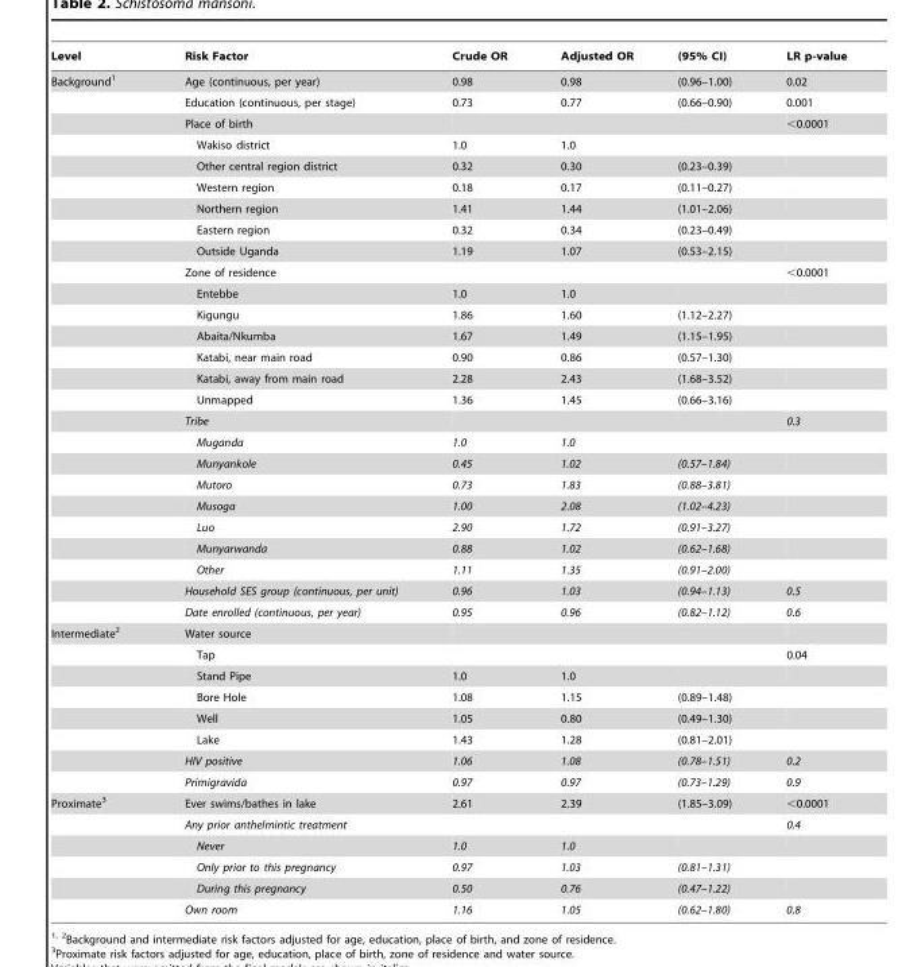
<table><thead><tr><td>Level</td><td>Risk Factor</td><td>Crude OR</td><td>Adjusted OR</td><td>(95% CI)</td><td>LR p-value</td></tr></thead><tbody><tr><td rowspan="26">Background<sup>1</sup></td><td>Age (continuous, per year)</td><td>0.98</td><td>0.98</td><td>(0.96–1.00)</td><td>0.02</td></tr><tr><td>Education (continuous, per stage)</td><td>0.73</td><td>0.77</td><td>(0.66–0.90)</td><td>0.001</td></tr><tr><td>Place of birth</td><td></td><td></td><td></td><td>&lt;0.0001</td></tr><tr><td>Wakiso district</td><td>1.0</td><td>1.0</td><td></td><td></td></tr><tr><td>Other central region district</td><td>0.32</td><td>0.30</td><td>(0.23–0.39)</td><td></td></tr><tr><td>Western region</td><td>0.18</td><td>0.17</td><td>(0.11–0.27)</td><td></td></tr><tr><td>Northern region</td><td>1.41</td><td>1.44</td><td>(1.01–2.06)</td><td></td></tr><tr><td>Eastern region</td><td>0.32</td><td>0.34</td><td>(0.23–0.49)</td><td></td></tr><tr><td>Outside Uganda</td><td>1.19</td><td>1.07</td><td>(0.53–2.15)</td><td></td></tr><tr><td>Zone of residence</td><td></td><td></td><td></td><td>&lt;0.0001</td></tr><tr><td>Entebbe</td><td>1.0</td><td>1.0</td><td></td><td></td></tr><tr><td>Kigungu</td><td>1.86</td><td>1.60</td><td>(1.12–2.27)</td><td></td></tr><tr><td>Abaita/Nkumba</td><td>1.67</td><td>1.49</td><td>(1.15–1.95)</td><td></td></tr><tr><td>Katabi, near main road</td><td>0.90</td><td>0.86</td><td>(0.57–1.30)</td><td></td></tr><tr><td>Katabi, away from main road</td><td>2.28</td><td>2.43</td><td>(1.68–3.52)</td><td></td></tr><tr><td>Unmapped</td><td>1.36</td><td>1.45</td><td>(0.66–3.16)</td><td></td></tr><tr><td>Tribe</td><td></td><td></td><td></td><td>0.3</td></tr><tr><td>Muganda</td><td>1.0</td><td>1.0</td><td></td><td></td></tr><tr><td>Munyankole</td><td>0.45</td><td>1.02</td><td>(0.57–1.84)</td><td></td></tr><tr><td>Mutoro</td><td>0.73</td><td>1.83</td><td>(0.88–3.81)</td><td></td></tr><tr><td>Musoga</td><td>1.00</td><td>2.08</td><td>(1.02–4.23)</td><td></td></tr><tr><td>Luo</td><td>2.90</td><td>1.72</td><td>(0.91–3.27)</td><td></td></tr><tr><td>Munyarwanda</td><td>0.88</td><td>1.02</td><td>(0.62–1.68)</td><td></td></tr><tr><td>Other</td><td>1.11</td><td>1.35</td><td>(0.91–2.00)</td><td></td></tr><tr><td>Household SES group (continuous, per unit)</td><td>0.96</td><td>1.03</td><td>(0.94–1.13)</td><td>0.5</td></tr><tr><td>Date enrolled (continuous, per year)</td><td>0.95</td><td>0.96</td><td>(0.82–1.12)</td><td>0.6</td></tr><tr><td rowspan="8">Intermediate<sup>2</sup></td><td>Water source</td><td></td><td></td><td></td><td></td></tr><tr><td>Tap</td><td></td><td></td><td></td><td>0.04</td></tr><tr><td>Stand Pipe</td><td>1.0</td><td>1.0</td><td></td><td></td></tr><tr><td>Bore Hole</td><td>1.08</td><td>1.15</td><td>(0.89–1.48)</td><td></td></tr><tr><td>Well</td><td>1.05</td><td>0.80</td><td>(0.49–1.30)</td><td></td></tr><tr><td>Lake</td><td>1.43</td><td>1.28</td><td>(0.81–2.01)</td><td></td></tr><tr><td>HIV positive</td><td>1.06</td><td>1.08</td><td>(0.78–1.51)</td><td>0.2</td></tr><tr><td>Primigravida</td><td>0.97</td><td>0.97</td><td>(0.73–1.29)</td><td>0.9</td></tr><tr><td rowspan="6">Proximate<sup>3</sup></td><td>Ever swims/bathes in lake</td><td>2.61</td><td>2.39</td><td>(1.85–3.09)</td><td>&lt;0.0001</td></tr><tr><td>Any prior anthelmintic treatment</td><td></td><td></td><td></td><td>0.4</td></tr><tr><td>Never</td><td>1.0</td><td>1.0</td><td></td><td></td></tr><tr><td>Only prior to this pregnancy</td><td>0.97</td><td>1.03</td><td>(0.81–1.31)</td><td></td></tr><tr><td>During this pregnancy</td><td>0.50</td><td>0.76</td><td>(0.47–1.22)</td><td></td></tr><tr><td>Own room</td><td>1.16</td><td>1.05</td><td>(0.62–1.80)</td><td>0.8</td></tr></tbody></table>